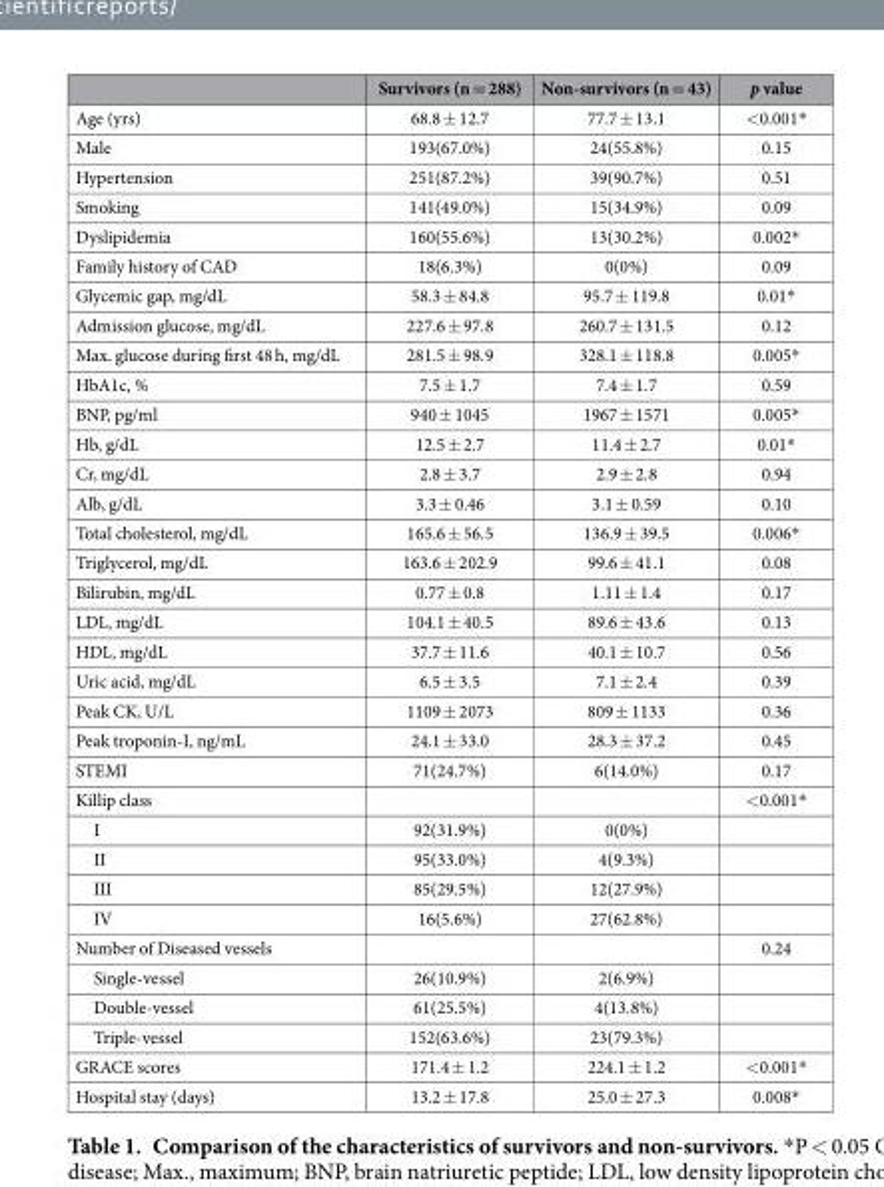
<table><thead><tr><td></td><td>Survivors (n = 288)</td><td>Non-survivors (n = 43)</td><td>p value</td></tr></thead><tbody><tr><td>Age (yrs)</td><td>68.8 ± 12.7</td><td>77.7 ± 13.1</td><td>&lt; 0.001*</td></tr><tr><td>Male</td><td>193(67.0%)</td><td>24(55.8%)</td><td>0.15</td></tr><tr><td>Hypertension</td><td>251(87.2%)</td><td>39(90.7%)</td><td>0.51</td></tr><tr><td>Smoking</td><td>141(49.0%)</td><td>15(34.9%)</td><td>0.09</td></tr><tr><td>Dyslipidemia</td><td>160(55.6%)</td><td>13(30.2%)</td><td>0.002*</td></tr><tr><td>Family history of CAD</td><td>18(6.3%)</td><td>0(0%)</td><td>0.09</td></tr><tr><td>Glycemic gap, mg/dL</td><td>58.3 ± 84.8</td><td>95.7 ± 119.8</td><td>0.01*</td></tr><tr><td>Admission glucose, mg/dL</td><td>227.6 ± 97.8</td><td>260.7 ± 131.5</td><td>0.12</td></tr><tr><td>Max. glucose during first 48 h, mg/dL</td><td>281.5 ± 98.9</td><td>328.1 ± 118.8</td><td>0.005*</td></tr><tr><td>HbA1c, %</td><td>7.5 ± 1.7</td><td>7.4 ± 1.7</td><td>0.59</td></tr><tr><td>BNP, pg/ml</td><td>940 ± 1045</td><td>1967 ± 1571</td><td>0.005*</td></tr><tr><td>Hb, g/dL</td><td>12.5 ± 2.7</td><td>11.4 ± 2.7</td><td>0.01*</td></tr><tr><td>Cr, mg/dL</td><td>2.8 ± 3.7</td><td>2.9 ± 2.8</td><td>0.94</td></tr><tr><td>Alb, g/dL</td><td>3.3 ± 0.46</td><td>3.1 ± 0.59</td><td>0.10</td></tr><tr><td>Total cholesterol, mg/dL</td><td>165.6 ± 56.5</td><td>136.9 ± 39.5</td><td>0.006*</td></tr><tr><td>Triglycerol, mg/dL</td><td>163.6 ± 202.9</td><td>99.6 ± 41.1</td><td>0.08</td></tr><tr><td>Bilirubin, mg/dL</td><td>0.77 ± 0.8</td><td>1.11 ± 1.4</td><td>0.17</td></tr><tr><td>LDL, mg/dL</td><td>104.1 ± 40.5</td><td>89.6 ± 43.6</td><td>0.13</td></tr><tr><td>HDL, mg/dL</td><td>37.7 ± 11.6</td><td>40.1 ± 10.7</td><td>0.56</td></tr><tr><td>Uric acid, mg/dL</td><td>6.5 ± 3.5</td><td>7.1 ± 2.4</td><td>0.39</td></tr><tr><td>Peak CK, U/L</td><td>1109 ± 2073</td><td>809 ± 1133</td><td>0.36</td></tr><tr><td>Peak troponin-I, ng/mL</td><td>24.1 ± 33.0</td><td>28.3 ± 37.2</td><td>0.45</td></tr><tr><td>STEMI</td><td>71(24.7%)</td><td>6(14.0%)</td><td>0.17</td></tr><tr><td>Killip class</td><td></td><td></td><td>&lt; 0.001*</td></tr><tr><td>I</td><td>92(31.9%)</td><td>0(0%)</td><td></td></tr><tr><td>II</td><td>95(33.0%)</td><td>4(9.3%)</td><td></td></tr><tr><td>III</td><td>85(29.5%)</td><td>12(27.9%)</td><td></td></tr><tr><td>IV</td><td>16(5.6%)</td><td>27(62.8%)</td><td></td></tr><tr><td>Number of Diseased vessels</td><td></td><td></td><td>0.24</td></tr><tr><td>Single-vessel</td><td>26(10.9%)</td><td>2(6.9%)</td><td></td></tr><tr><td>Double-vessel</td><td>61(25.5%)</td><td>4(13.8%)</td><td></td></tr><tr><td>Triple-vessel</td><td>152(63.6%)</td><td>23(79.3%)</td><td></td></tr><tr><td>GRACE scores</td><td>171.4 ± 1.2</td><td>224.1 ± 1.2</td><td>&lt; 0.001*</td></tr><tr><td>Hospital stay (days)</td><td>13.2 ± 17.8</td><td>25.0 ± 27.3</td><td>0.008*</td></tr></tbody></table>